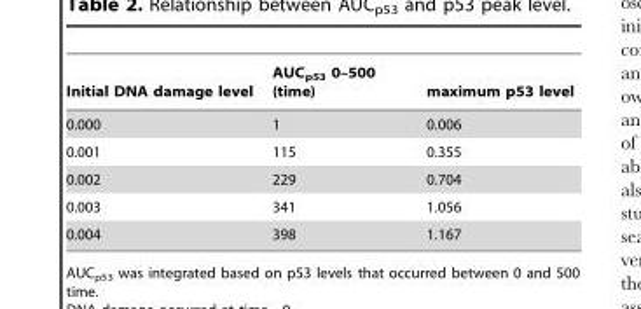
<table><thead><tr><td>Initial DNA damage level</td><td>AUC<sub>p53</sub> 0–500 (time)</td><td>maximum p53 level</td></tr></thead><tbody><tr><td>0.000</td><td>1</td><td>0.006</td></tr><tr><td>0.001</td><td>115</td><td>0.355</td></tr><tr><td>0.002</td><td>229</td><td>0.704</td></tr><tr><td>0.003</td><td>341</td><td>1.056</td></tr><tr><td>0.004</td><td>398</td><td>1.167</td></tr></tbody></table>